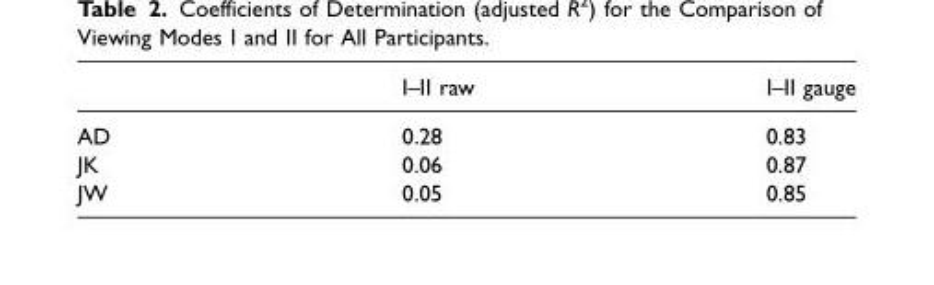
<table><thead><tr><td></td><td>I–II raw</td><td>I–II gauge</td></tr></thead><tbody><tr><td>AD</td><td>0.28</td><td>0.83</td></tr><tr><td>JK</td><td>0.06</td><td>0.87</td></tr><tr><td>JW</td><td>0.05</td><td>0.85</td></tr></tbody></table>